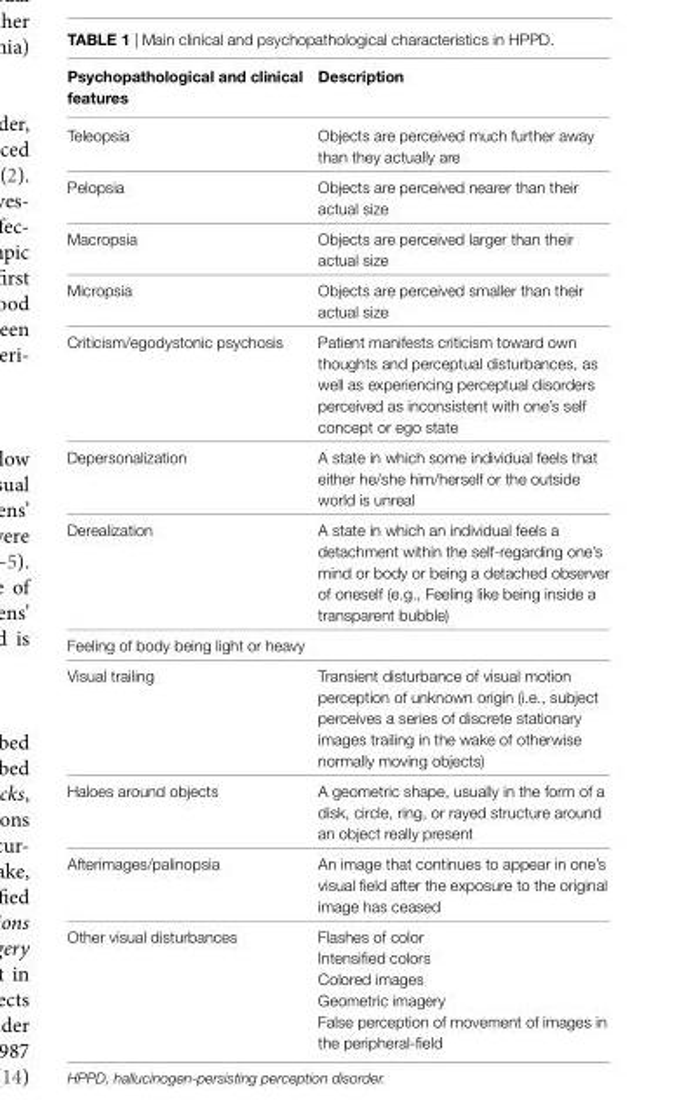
<table><thead><tr><td>Psychopathological and clinical features</td><td>Description</td></tr></thead><tbody><tr><td>Teleopsia</td><td>Objects are perceived much further away than they actually are</td></tr><tr><td>Pelopsia</td><td>Objects are perceived nearer than their actual size</td></tr><tr><td>Macropsia</td><td>Objects are perceived larger than their actual size</td></tr><tr><td>Micropsia</td><td>Objects are perceived smaller than their actual size</td></tr><tr><td>Criticism/egodystonic psychosis</td><td>Patient manifests criticism toward own thoughts and perceptual disturbances, as well as experiencing perceptual disorders perceived as inconsistent with one’s self concept or ego state</td></tr><tr><td>Depersonalization</td><td>A state in which some individual feels that either he/she him/herself or the outside world is unreal</td></tr><tr><td>Derealization</td><td>A state in which an individual feels a detachment within the self-regarding one’s mind or body or being a detached observer of oneself (e.g., Feeling like being inside a transparent bubble)</td></tr><tr><td colspan="2">Feeling of body being light or heavy</td></tr><tr><td>Visual trailing</td><td>Transient disturbance of visual motion perception of unknown origin (i.e., subject perceives a series of discrete stationary images trailing in the wake of otherwise normally moving objects)</td></tr><tr><td>Haloes around objects</td><td>A geometric shape, usually in the form of a disk, circle, ring, or rayed structure around an object really present</td></tr><tr><td>Afterimages/palinopsia</td><td>An image that continues to appear in one’s visual field after the exposure to the original image has ceased</td></tr><tr><td rowspan="5">Other visual disturbances</td><td>Flashes of color</td></tr><tr><td>Intensified colors</td></tr><tr><td>Colored images</td></tr><tr><td>Geometric imagery</td></tr><tr><td>False perception of movement of images in the peripheral-field</td></tr></tbody></table>